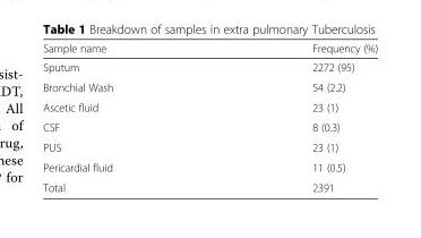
<table><thead><tr><td>Sample name</td><td>Frequency (%)</td></tr></thead><tbody><tr><td>Sputum</td><td>2272 (95)</td></tr><tr><td>Bronchial Wash</td><td>54 (2.2)</td></tr><tr><td>Ascetic fluid</td><td>23 (1)</td></tr><tr><td>CSF</td><td>8 (0.3)</td></tr><tr><td>PUS</td><td>23 (1)</td></tr><tr><td>Pericardial fluid</td><td>11 (0.5)</td></tr><tr><td>Total</td><td>2391</td></tr></tbody></table>